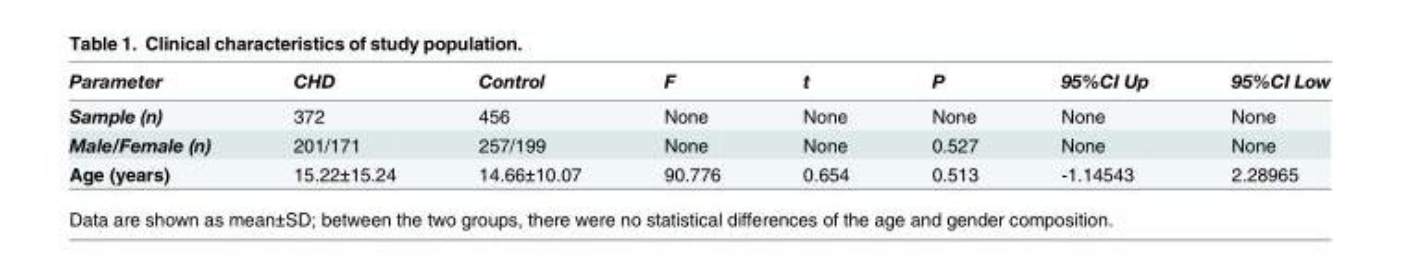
<table><thead><tr><td>Parameter</td><td>CHD</td><td>Control</td><td>F</td><td>t</td><td>P</td><td>95%CI Up</td><td>95%CI Low</td></tr></thead><tbody><tr><td>Sample (n)</td><td>372</td><td>456</td><td>None</td><td>None</td><td>None</td><td>None</td><td>None</td></tr><tr><td>Male/Female (n)</td><td>201/171</td><td>257/199</td><td>None</td><td>None</td><td>0.527</td><td>None</td><td>None</td></tr><tr><td>Age (years)</td><td>15.22±15.24</td><td>14.66±10.07</td><td>90.776</td><td>0.654</td><td>0.513</td><td>-1.14543</td><td>2.28965</td></tr></tbody></table>